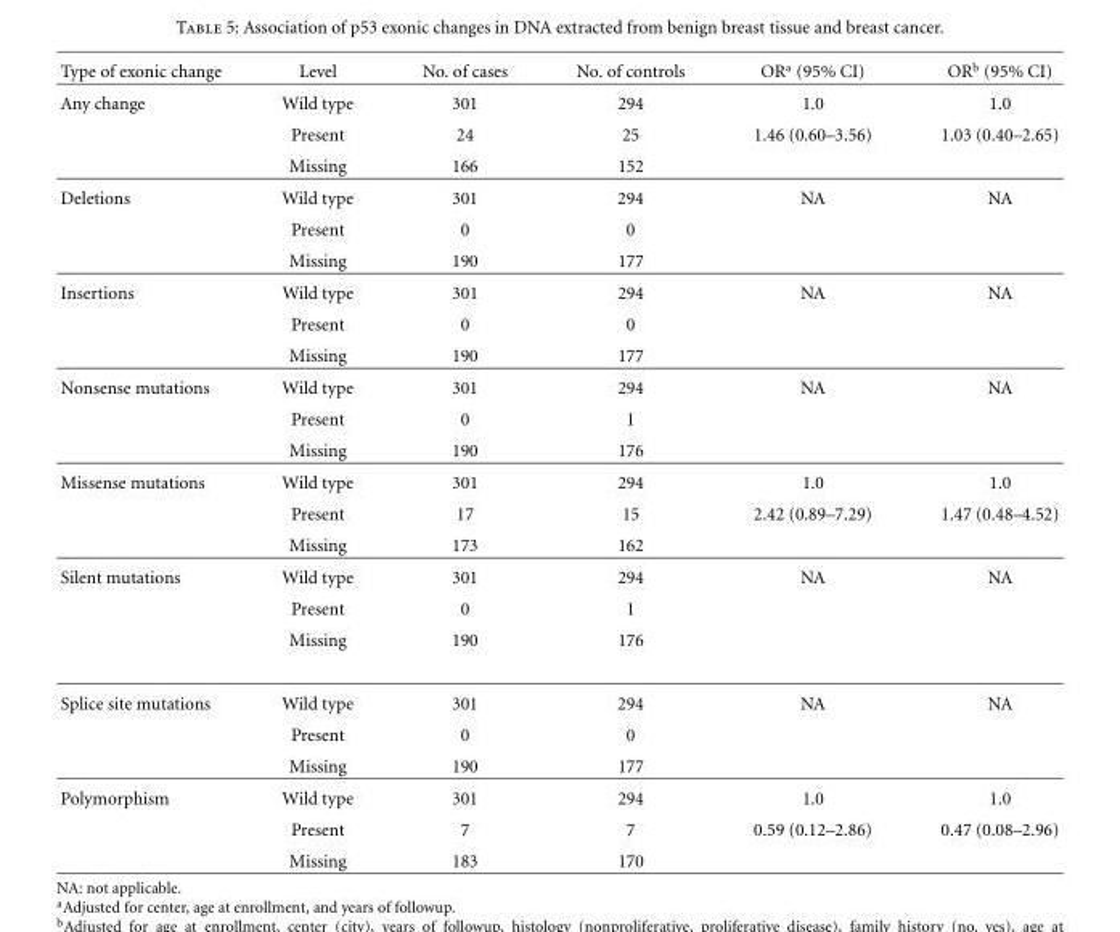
<table><thead><tr><td>Type of exonic change</td><td>Level</td><td>No. of cases</td><td>No. of controls</td><td>OR<sup>a</sup> (95% CI)</td><td>OR<sup>b</sup> (95% CI)</td></tr></thead><tbody><tr><td rowspan="3">Any change</td><td>Wild type</td><td>301</td><td>294</td><td>1.0</td><td>1.0</td></tr><tr><td>Present</td><td>24</td><td>25</td><td>1.46 (0.60–3.56)</td><td>1.03 (0.40–2.65)</td></tr><tr><td>Missing</td><td>166</td><td>152</td><td></td><td></td></tr><tr><td rowspan="3">Deletions</td><td>Wild type</td><td>301</td><td>294</td><td>NA</td><td>NA</td></tr><tr><td>Present</td><td>0</td><td>0</td><td></td><td></td></tr><tr><td>Missing</td><td>190</td><td>177</td><td></td><td></td></tr><tr><td rowspan="3">Insertions</td><td>Wild type</td><td>301</td><td>294</td><td>NA</td><td>NA</td></tr><tr><td>Present</td><td>0</td><td>0</td><td></td><td></td></tr><tr><td>Missing</td><td>190</td><td>177</td><td></td><td></td></tr><tr><td rowspan="3">Nonsense mutations</td><td>Wild type</td><td>301</td><td>294</td><td>NA</td><td>NA</td></tr><tr><td>Present</td><td>0</td><td>1</td><td></td><td></td></tr><tr><td>Missing</td><td>190</td><td>176</td><td></td><td></td></tr><tr><td rowspan="3">Missense mutations</td><td>Wild type</td><td>301</td><td>294</td><td>1.0</td><td>1.0</td></tr><tr><td>Present</td><td>17</td><td>15</td><td>2.42 (0.89–7.29)</td><td>1.47 (0.48–4.52)</td></tr><tr><td>Missing</td><td>173</td><td>162</td><td></td><td></td></tr><tr><td rowspan="3">Silent mutations</td><td>Wild type</td><td>301</td><td>294</td><td>NA</td><td>NA</td></tr><tr><td>Present</td><td>0</td><td>1</td><td></td><td></td></tr><tr><td>Missing</td><td>190</td><td>176</td><td></td><td></td></tr><tr><td rowspan="3">Splice site mutations</td><td>Wild type</td><td>301</td><td>294</td><td>NA</td><td>NA</td></tr><tr><td>Present</td><td>0</td><td>0</td><td></td><td></td></tr><tr><td>Missing</td><td>190</td><td>177</td><td></td><td></td></tr><tr><td rowspan="3">Polymorphism</td><td>Wild type</td><td>301</td><td>294</td><td>1.0</td><td>1.0</td></tr><tr><td>Present</td><td>7</td><td>7</td><td>0.59 (0.12–2.86)</td><td>0.47 (0.08–2.96)</td></tr><tr><td>Missing</td><td>183</td><td>170</td><td></td><td></td></tr></tbody></table>